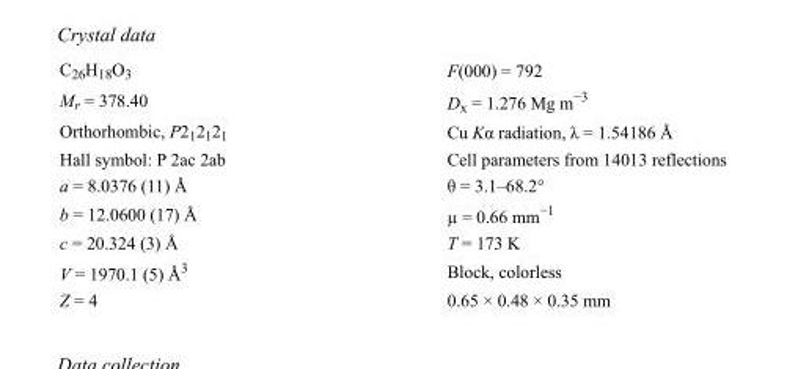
<table><tbody><tr><td>C<sub>26</sub>H<sub>18</sub>O<sub>3</sub></td><td>F(000) = 792</td></tr><tr><td>M<sub>r</sub> = 378.40</td><td>D<sub>x</sub> = 1.276 Mg m<sup>−3</sup></td></tr><tr><td>Orthorhombic, P2<sub>1</sub>2<sub>1</sub>2<sub>1</sub></td><td>Cu Kα radiation, λ = 1.54186 Å</td></tr><tr><td>Hall symbol: P 2ac 2ab</td><td>Cell parameters from 14013 reflections</td></tr><tr><td>a = 8.0376 (11) Å</td><td>θ = 3.1–68.2°</td></tr><tr><td>b = 12.0600 (17) Å</td><td>µ = 0.66 mm<sup>−1</sup></td></tr><tr><td>c = 20.324 (3) Å</td><td>T = 173 K</td></tr><tr><td>V = 1970.1 (5) Å<sup>3</sup></td><td>Block, colorless</td></tr><tr><td>Z = 4</td><td>0.65 × 0.48 × 0.35 mm</td></tr></tbody></table>